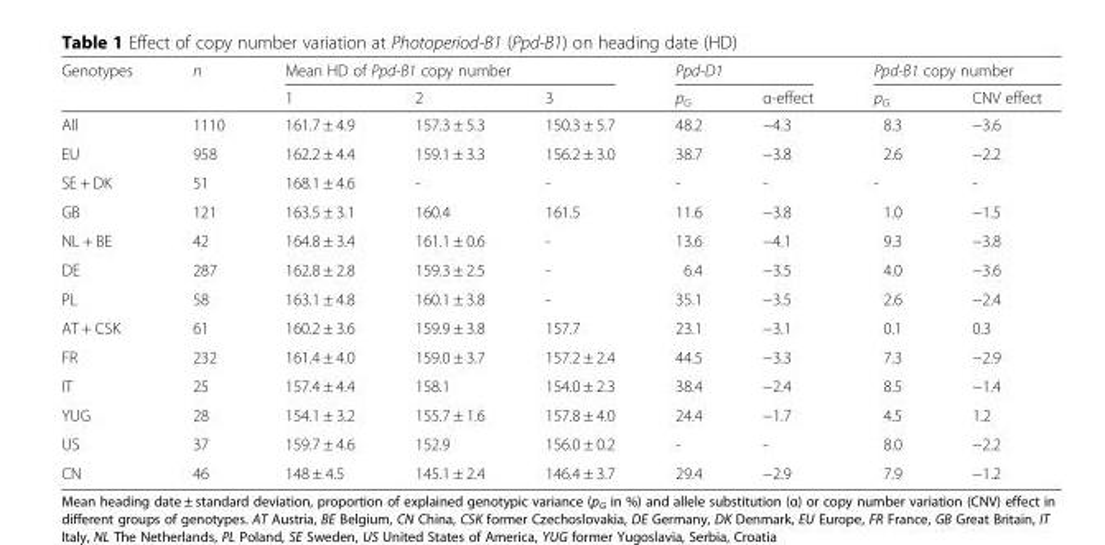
<table><thead><tr><td rowspan="2">Genotypes</td><td rowspan="2">n</td><td colspan="3">Mean HD of Ppd-B1 copy number</td><td colspan="2">Ppd-D1</td><td colspan="2">Ppd-B1 copy number</td></tr><tr><td>1</td><td>2</td><td>3</td><td>p<sub>G</sub></td><td>α-effect</td><td>p<sub>G</sub></td><td>CNV effect</td></tr></thead><tbody><tr><td>All</td><td>1110</td><td>161.7 ± 4.9</td><td>157.3 ± 5.3</td><td>150.3 ± 5.7</td><td>48.2</td><td>−4.3</td><td>8.3</td><td>−3.6</td></tr><tr><td>EU</td><td>958</td><td>162.2 ± 4.4</td><td>159.1 ± 3.3</td><td>156.2 ± 3.0</td><td>38.7</td><td>−3.8</td><td>2.6</td><td>−2.2</td></tr><tr><td>SE + DK</td><td>51</td><td>168.1 ± 4.6</td><td>-</td><td>-</td><td>-</td><td>-</td><td>-</td><td>-</td></tr><tr><td>GB</td><td>121</td><td>163.5 ± 3.1</td><td>160.4</td><td>161.5</td><td>11.6</td><td>−3.8</td><td>1.0</td><td>−1.5</td></tr><tr><td>NL + BE</td><td>42</td><td>164.8 ± 3.4</td><td>161.1 ± 0.6</td><td>-</td><td>13.6</td><td>−4.1</td><td>9.3</td><td>−3.8</td></tr><tr><td>DE</td><td>287</td><td>162.8 ± 2.8</td><td>159.3 ± 2.5</td><td>-</td><td>6.4</td><td>−3.5</td><td>4.0</td><td>−3.6</td></tr><tr><td>PL</td><td>58</td><td>163.1 ± 4.8</td><td>160.1 ± 3.8</td><td>-</td><td>35.1</td><td>−3.5</td><td>2.6</td><td>−2.4</td></tr><tr><td>AT + CSK</td><td>61</td><td>160.2 ± 3.6</td><td>159.9 ± 3.8</td><td>157.7</td><td>23.1</td><td>−3.1</td><td>0.1</td><td>0.3</td></tr><tr><td>FR</td><td>232</td><td>161.4 ± 4.0</td><td>159.0 ± 3.7</td><td>157.2 ± 2.4</td><td>44.5</td><td>−3.3</td><td>7.3</td><td>−2.9</td></tr><tr><td>IT</td><td>25</td><td>157.4 ± 4.4</td><td>158.1</td><td>154.0 ± 2.3</td><td>38.4</td><td>−2.4</td><td>8.5</td><td>−1.4</td></tr><tr><td>YUG</td><td>28</td><td>154.1 ± 3.2</td><td>155.7 ± 1.6</td><td>157.8 ± 4.0</td><td>24.4</td><td>−1.7</td><td>4.5</td><td>1.2</td></tr><tr><td>US</td><td>37</td><td>159.7 ± 4.6</td><td>152.9</td><td>156.0 ± 0.2</td><td>-</td><td>-</td><td>8.0</td><td>−2.2</td></tr><tr><td>CN</td><td>46</td><td>148 ± 4.5</td><td>145.1 ± 2.4</td><td>146.4 ± 3.7</td><td>29.4</td><td>−2.9</td><td>7.9</td><td>−1.2</td></tr></tbody></table>